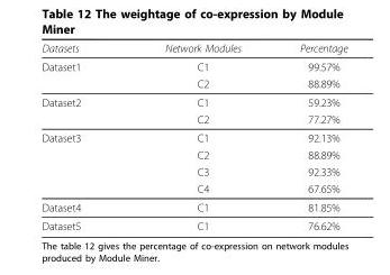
<table><thead><tr><td>Datasets</td><td>Network Modules</td><td>Percentage</td></tr></thead><tbody><tr><td rowspan="2">Dataset1</td><td>C1</td><td>99.57%</td></tr><tr><td>C2</td><td>88.89%</td></tr><tr><td rowspan="2">Dataset2</td><td>C1</td><td>59.23%</td></tr><tr><td>C2</td><td>77.27%</td></tr><tr><td rowspan="4">Dataset3</td><td>C1</td><td>92.13%</td></tr><tr><td>C2</td><td>88.89%</td></tr><tr><td>C3</td><td>92.33%</td></tr><tr><td>C4</td><td>67.65%</td></tr><tr><td>Dataset4</td><td>C1</td><td>81.85%</td></tr><tr><td>Dataset5</td><td>C1</td><td>76.62%</td></tr></tbody></table>